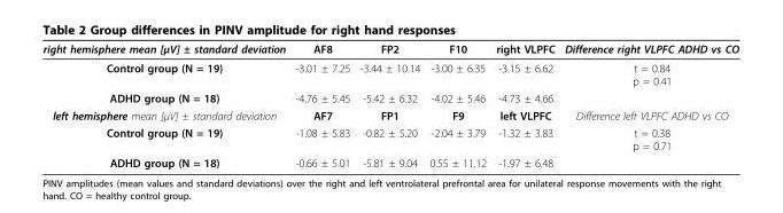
<table><thead><tr><td>right hemisphere mean [μV] ± standard deviation</td><td>AF8</td><td>FP2</td><td>F10</td><td>right VLPFC</td><td>Difference right VLPFC ADHD vs CO</td></tr></thead><tbody><tr><td>Control group (N = 19)</td><td>-3.01 ± 7.25</td><td>-3.44 ± 10.14</td><td>-3.00 ± 6.35</td><td>-3.15 ± 6.62</td><td>t = 0.84 p = 0.41</td></tr><tr><td>ADHD group (N = 18)</td><td>-4.76 ± 5.45</td><td>-5.42 ± 6.32</td><td>-4.02 ± 5.46</td><td>-4.73 ± 4.66</td><td></td></tr><tr><td>left hemisphere mean [μV] ± standard deviation</td><td>AF7</td><td>FP1</td><td>F9</td><td>left VLPFC</td><td>Difference left VLPFC ADHD vs CO</td></tr><tr><td>Control group (N = 19)</td><td>-1.08 ± 5.83</td><td>-0.82 ± 5.20</td><td>-2.04 ± 3.79</td><td>-1.32 ± 3.83</td><td>t = 0.38 p = 0.71</td></tr><tr><td>ADHD group (N = 18)</td><td>-0.66 ± 5.01</td><td>-5.81 ± 9.04</td><td>0.55 ± 11.12</td><td>-1.97 ± 6.48</td><td></td></tr></tbody></table>